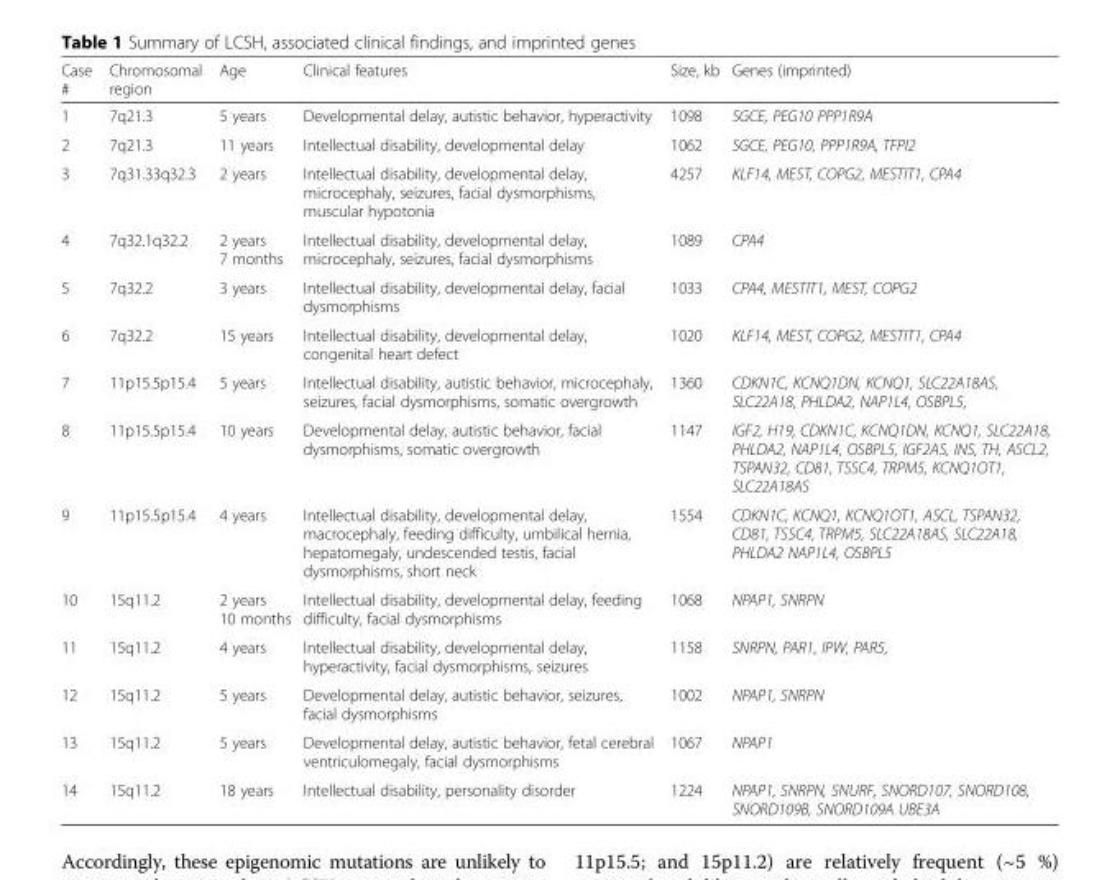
<table><thead><tr><td>Case #</td><td>Chromosomal region</td><td>Age</td><td>Clinical features</td><td>Size, kb</td><td>Genes (imprinted)</td></tr></thead><tbody><tr><td>1</td><td>7q21.3</td><td>5 years</td><td>Developmental delay, autistic behavior, hyperactivity</td><td>1098</td><td>SGCE, PEG10 PPP1R9A</td></tr><tr><td>2</td><td>7q21.3</td><td>11 years</td><td>Intellectual disability, developmental delay</td><td>1062</td><td>SGCE, PEG10, PPP1R9A, TFPI2</td></tr><tr><td>3</td><td>7q31.33q32.3</td><td>2 years</td><td>Intellectual disability, developmental delay, microcephaly, seizures, facial dysmorphisms, muscular hypotonia</td><td>4257</td><td>KLF14, MEST, COPG2, MESTIT1, CPA4</td></tr><tr><td>4</td><td>7q32.1q32.2</td><td>2 years 7 months</td><td>Intellectual disability, developmental delay, microcephaly, seizures, facial dysmorphisms</td><td>1089</td><td>CPA4</td></tr><tr><td>5</td><td>7q32.2</td><td>3 years</td><td>Intellectual disability, developmental delay, facial dysmorphisms</td><td>1033</td><td>CPA4, MESTIT1, MEST, COPG2</td></tr><tr><td>6</td><td>7q32.2</td><td>15 years</td><td>Intellectual disability, developmental delay, congenital heart defect</td><td>1020</td><td>KLF14, MEST, COPG2, MESTIT1, CPA4</td></tr><tr><td>7</td><td>11р15.5р15.4</td><td>5 years</td><td>Intellectual disability, autistic behavior, microcephaly, seizures, facial dysmorphisms, somatic overgrowth</td><td>1360</td><td>CDKN1C, KCNQ1DN, KCNQ1, SLC22A18AS, SLC22A18, PHLDA2, NAP1L4, OSBPL5,</td></tr><tr><td>8</td><td>11р15.5р15.4</td><td>10 years</td><td>Developmental delay, autistic behavior, facial dysmorphisms, somatic overgrowth</td><td>1147</td><td>IGF2, H19, CDKN1C, KCNQ1DN, KCNQ1, SLC22A18, PHLDA2, NAP1L4, OSBPL5, IGF2AS, INS, TH, ASCL2, TSPAN32, CD81, TSSC4, TRPM5, KCNQ1OT1, SLC22A18AS</td></tr><tr><td>9</td><td>11p15.5p15.4</td><td>4 years</td><td>Intellectual disability, developmental delay, macrocephaly, feeding difficulty, umbilical hernia, hepatomegaly, undescended testis, facial dysmorphisms, short neck</td><td>1554</td><td>CDKN1C, KCNQ1, KCNQ1OT1, ASCL, TSPAN32, CD81, TSSC4, TRPM5, SLC22A18AS, SLC22A18, PHLDA2 NAP1L4, OSBPL5</td></tr><tr><td>10</td><td>15q11.2</td><td>2 years 10 months</td><td>Intellectual disability, developmental delay, feeding difficulty, facial dysmorphisms</td><td>1068</td><td>NPAP1, SNRPN</td></tr><tr><td>11</td><td>15q11.2</td><td>4 years</td><td>Intellectual disability, developmental delay, hyperactivity, facial dysmorphisms, seizures</td><td>1158</td><td>SNRPN, PAR1, IPW, PAR5,</td></tr><tr><td>12</td><td>15q11.2</td><td>5 years</td><td>Developmental delay, autistic behavior, seizures, facial dysmorphisms</td><td>1002</td><td>NPAP1, SNRPN</td></tr><tr><td>13</td><td>15q11.2</td><td>5 years</td><td>Developmental delay, autistic behavior, fetal cerebral ventriculomegaly, facial dysmorphisms</td><td>1067</td><td>NPAP1</td></tr><tr><td>14</td><td>15q11.2</td><td>18 years</td><td>Intellectual disability, personality disorder</td><td>1224</td><td>NPAP1, SNRPN, SNURF, SNORD107, SNORD108, SNORD109B, SNORD109A UBE3A</td></tr></tbody></table>